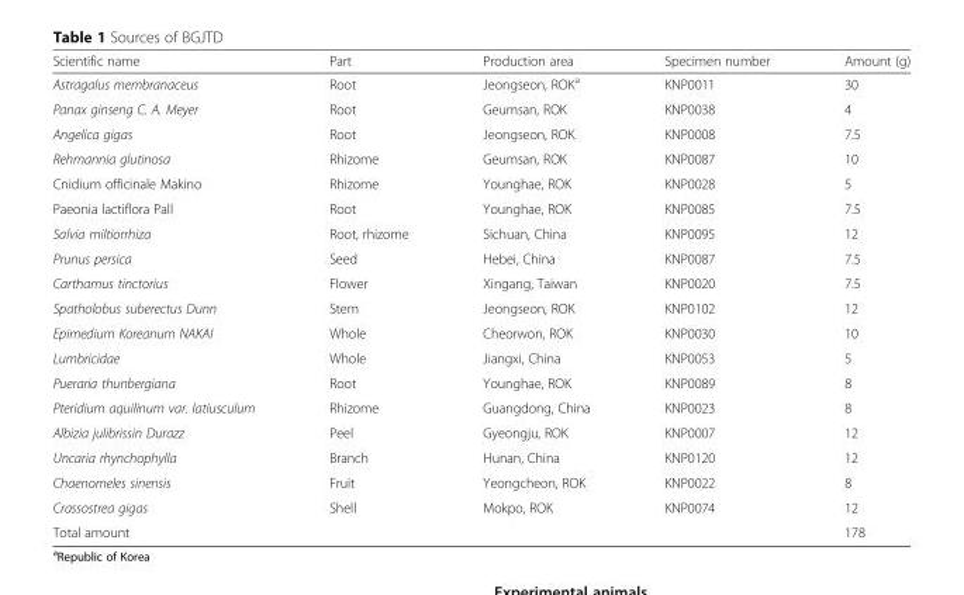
<table><thead><tr><td>Scientific name</td><td>Part</td><td>Production area</td><td>Specimen number</td><td>Amount (g)</td></tr></thead><tbody><tr><td>Astragalus membranaceus</td><td>Root</td><td>Jeongseon, ROK<sup>a</sup></td><td>KNP0011</td><td>30</td></tr><tr><td>Panax ginseng C. A. Meyer</td><td>Root</td><td>Geumsan, ROK</td><td>KNP0038</td><td>4</td></tr><tr><td>Angelica gigas</td><td>Root</td><td>Jeongseon, ROK</td><td>KNP0008</td><td>7.5</td></tr><tr><td>Rehmannia glutinosa</td><td>Rhizome</td><td>Geumsan, ROK</td><td>KNP0087</td><td>10</td></tr><tr><td>Cnidium officinale Makino</td><td>Rhizome</td><td>Younghae, ROK</td><td>KNP0028</td><td>5</td></tr><tr><td>Paeonia lactiflora Pall</td><td>Root</td><td>Younghae, ROK</td><td>KNP0085</td><td>7.5</td></tr><tr><td>Salvia miltiorrhiza</td><td>Root, rhizome</td><td>Sichuan, China</td><td>KNP0095</td><td>12</td></tr><tr><td>Prunus persica</td><td>Seed</td><td>Hebei, China</td><td>KNP0087</td><td>7.5</td></tr><tr><td>Carthamus tinctorius</td><td>Flower</td><td>Xingang, Taiwan</td><td>KNP0020</td><td>7.5</td></tr><tr><td>Spatholobus suberectus Dunn</td><td>Stem</td><td>Jeongseon, ROK</td><td>KNP0102</td><td>12</td></tr><tr><td>Epimedium Koreanum NAKAI</td><td>Whole</td><td>Cheorwon, ROK</td><td>KNP0030</td><td>10</td></tr><tr><td>Lumbricidae</td><td>Whole</td><td>Jiangxi, China</td><td>KNP0053</td><td>5</td></tr><tr><td>Pueraria thunbergiana</td><td>Root</td><td>Younghae, ROK</td><td>KNP0089</td><td>8</td></tr><tr><td>Pteridium aquilinum var. latiusculum</td><td>Rhizome</td><td>Guangdong, China</td><td>KNP0023</td><td>8</td></tr><tr><td>Albizia julibrissin Durazz</td><td>Peel</td><td>Gyeongju, ROK</td><td>KNP0007</td><td>12</td></tr><tr><td>Uncaria rhynchophylla</td><td>Branch</td><td>Hunan, China</td><td>KNP0120</td><td>12</td></tr><tr><td>Chaenomeles sinensis</td><td>Fruit</td><td>Yeongcheon, ROK</td><td>KNP0022</td><td>8</td></tr><tr><td>Crassostrea gigas</td><td>Shell</td><td>Mokpo, ROK</td><td>KNP0074</td><td>12</td></tr><tr><td>Total amount</td><td></td><td></td><td></td><td>178</td></tr></tbody></table>